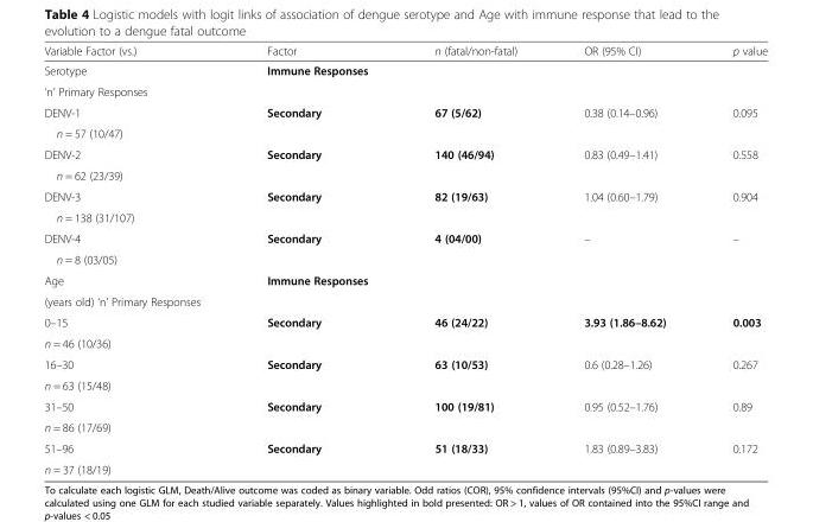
<table><thead><tr><td>Variable Factor (vs.)</td><td>Factor</td><td>n (fatal/non-fatal)</td><td>OR (95% CI)</td><td>p value</td></tr></thead><tbody><tr><td>Serotype</td><td rowspan="2">Immune Responses</td><td rowspan="2"></td><td rowspan="2"></td><td rowspan="2"></td></tr><tr><td>‘n’ Primary Responses</td></tr><tr><td>DENV-1</td><td rowspan="2">Secondary</td><td rowspan="2">67 (5/62)</td><td rowspan="2">0.38 (0.14–0.96)</td><td rowspan="2">0.095</td></tr><tr><td>n = 57 (10/47)</td></tr><tr><td>DENV-2</td><td rowspan="2">Secondary</td><td rowspan="2">140 (46/94)</td><td rowspan="2">0.83 (0.49–1.41)</td><td rowspan="2">0.558</td></tr><tr><td>n = 62 (23/39)</td></tr><tr><td>DENV-3</td><td rowspan="2">Secondary</td><td rowspan="2">82 (19/63)</td><td rowspan="2">1.04 (0.60–1.79)</td><td rowspan="2">0.904</td></tr><tr><td>n = 138 (31/107)</td></tr><tr><td>DENV-4</td><td rowspan="2">Secondary</td><td rowspan="2">4 (04/00)</td><td rowspan="2">–</td><td rowspan="2">–</td></tr><tr><td>n = 8 (03/05)</td></tr><tr><td>Age</td><td rowspan="2">Immune Responses</td><td rowspan="2"></td><td rowspan="2"></td><td rowspan="2"></td></tr><tr><td>(years old) ‘n’ Primary Responses</td></tr><tr><td>0–15</td><td rowspan="2">Secondary</td><td rowspan="2">46 (24/22)</td><td rowspan="2">3.93 (1.86–8.62)</td><td rowspan="2">0.003</td></tr><tr><td>n = 46 (10/36)</td></tr><tr><td>16–30</td><td rowspan="2">Secondary</td><td rowspan="2">63 (10/53)</td><td rowspan="2">0.6 (0.28–1.26)</td><td rowspan="2">0.267</td></tr><tr><td>n = 63 (15/48)</td></tr><tr><td>31–50</td><td rowspan="2">Secondary</td><td rowspan="2">100 (19/81)</td><td rowspan="2">0.95 (0.52–1.76)</td><td rowspan="2">0.89</td></tr><tr><td>n = 86 (17/69)</td></tr><tr><td>51–96</td><td rowspan="2">Secondary</td><td rowspan="2">51 (18/33)</td><td rowspan="2">1.83 (0.89–3.83)</td><td rowspan="2">0.172</td></tr><tr><td>n = 37 (18/19)</td></tr></tbody></table>